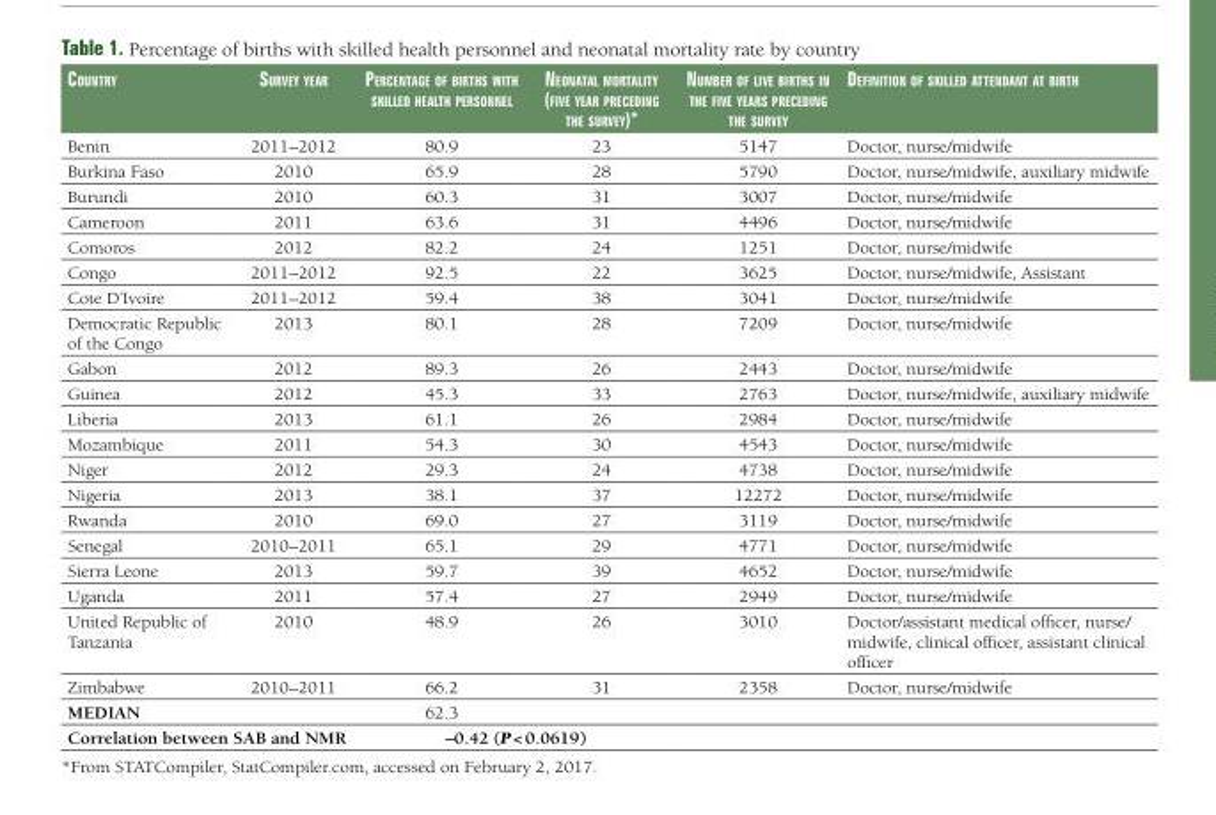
<table><thead><tr><td>Country</td><td>Survey year</td><td>PerCentage of birthS with Skilled health PerSonnel</td><td>neonatal mortality (five year PreCeding the Survey)*</td><td>number of live birthS in the five yearS PreCeding the Survey</td><td>definition of Skilled attendant at birth</td></tr></thead><tbody><tr><td>Benin</td><td>2011–2012</td><td>80.9</td><td>23</td><td>5147</td><td>Doctor, nurse/midwife</td></tr><tr><td>Burkina Faso</td><td>2010</td><td>65.9</td><td>28</td><td>5790</td><td>Doctor, nurse/midwife, auxiliary midwife</td></tr><tr><td>Burundi</td><td>2010</td><td>60.3</td><td>31</td><td>3007</td><td>Doctor, nurse/midwife</td></tr><tr><td>Cameroon</td><td>2011</td><td>63.6</td><td>31</td><td>4496</td><td>Doctor, nurse/midwife</td></tr><tr><td>Comoros</td><td>2012</td><td>82.2</td><td>24</td><td>1251</td><td>Doctor, nurse/midwife</td></tr><tr><td>Congo</td><td>2011–2012</td><td>92.5</td><td>22</td><td>3625</td><td>Doctor, nurse/midwife, Assistant</td></tr><tr><td>Cote D’Ivoire</td><td>2011–2012</td><td>59.4</td><td>38</td><td>3041</td><td>Doctor, nurse/midwife</td></tr><tr><td>Democratic Republic of the Congo</td><td>2013</td><td>80.1</td><td>28</td><td>7209</td><td>Doctor, nurse/midwife</td></tr><tr><td>Gabon</td><td>2012</td><td>89.3</td><td>26</td><td>2443</td><td>Doctor, nurse/midwife</td></tr><tr><td>Guinea</td><td>2012</td><td>45.3</td><td>33</td><td>2763</td><td>Doctor, nurse/midwife, auxiliary midwife</td></tr><tr><td>Liberia</td><td>2013</td><td>61.1</td><td>26</td><td>2984</td><td>Doctor, nurse/midwife</td></tr><tr><td>Mozambique</td><td>2011</td><td>54.3</td><td>30</td><td>4543</td><td>Doctor, nurse/midwife</td></tr><tr><td>Niger</td><td>2012</td><td>29.3</td><td>24</td><td>4738</td><td>Doctor, nurse/midwife</td></tr><tr><td>Nigeria</td><td>2013</td><td>38.1</td><td>37</td><td>12272</td><td>Doctor, nurse/midwife</td></tr><tr><td>Rwanda</td><td>2010</td><td>69.0</td><td>27</td><td>3119</td><td>Doctor, nurse/midwife</td></tr><tr><td>Senegal</td><td>2010–2011</td><td>65.1</td><td>29</td><td>4771</td><td>Doctor, nurse/midwife</td></tr><tr><td>Sierra Leone</td><td>2013</td><td>59.7</td><td>39</td><td>4652</td><td>Doctor, nurse/midwife</td></tr><tr><td>Uganda</td><td>2011</td><td>57.4</td><td>27</td><td>2949</td><td>Doctor, nurse/midwife</td></tr><tr><td>United Republic of Tanzania</td><td>2010</td><td>48.9</td><td>26</td><td>3010</td><td>Doctor/assistant medical officer, nurse/ midwife, clinical officer, assistant clinical officer</td></tr><tr><td>Zimbabwe</td><td>2010–2011</td><td>66.2</td><td>31</td><td>2358</td><td>Doctor, nurse/midwife</td></tr><tr><td>MEDIAN</td><td></td><td>62.3</td><td></td><td></td><td></td></tr><tr><td colspan="2">Correlation between SAB and NMR</td><td colspan="2">–0.42 (P &lt; 0.0619)</td><td></td><td></td></tr></tbody></table>